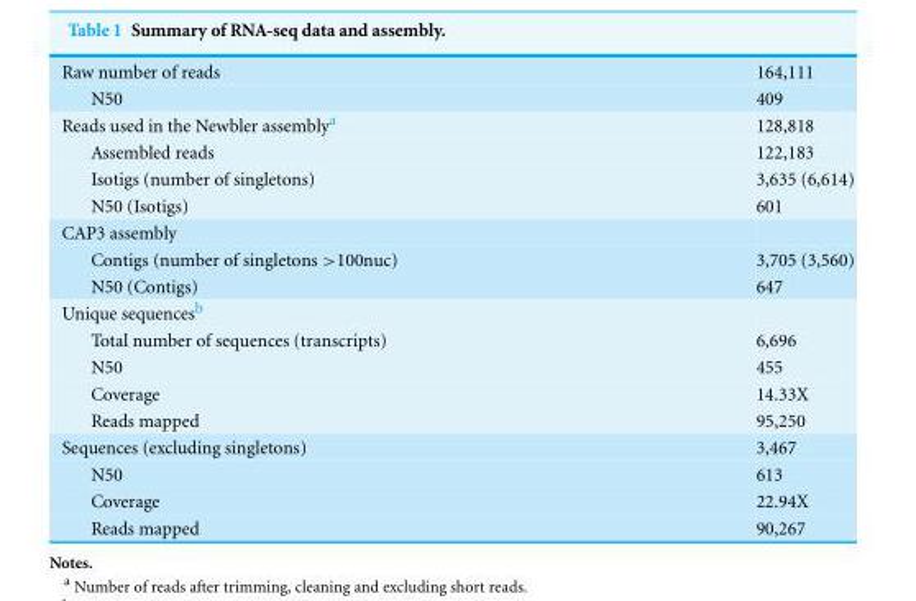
<table><tbody><tr><td>Raw number of reads</td><td>164,111</td></tr><tr><td>N50</td><td>409</td></tr><tr><td>Reads used in the Newbler assembly<sup>a</sup></td><td>128,818</td></tr><tr><td>Assembled reads</td><td>122,183</td></tr><tr><td>Isotigs (number of singletons)</td><td>3,635 (6,614)</td></tr><tr><td>N50 (Isotigs)</td><td>601</td></tr><tr><td colspan="2">CAP3 assembly</td></tr><tr><td>Contigs (number of singletons &gt;100nuc)</td><td>3,705 (3,560)</td></tr><tr><td>N50 (Contigs)</td><td>647</td></tr><tr><td colspan="2">Unique sequences<sup>b</sup></td></tr><tr><td>Total number of sequences (transcripts)</td><td>6,696</td></tr><tr><td>N50</td><td>455</td></tr><tr><td>Coverage</td><td>14.33X</td></tr><tr><td>Reads mapped</td><td>95,250</td></tr><tr><td>Sequences (excluding singletons)</td><td>3,467</td></tr><tr><td>N50</td><td>613</td></tr><tr><td>Coverage</td><td>22.94X</td></tr><tr><td>Reads mapped</td><td>90,267</td></tr></tbody></table>